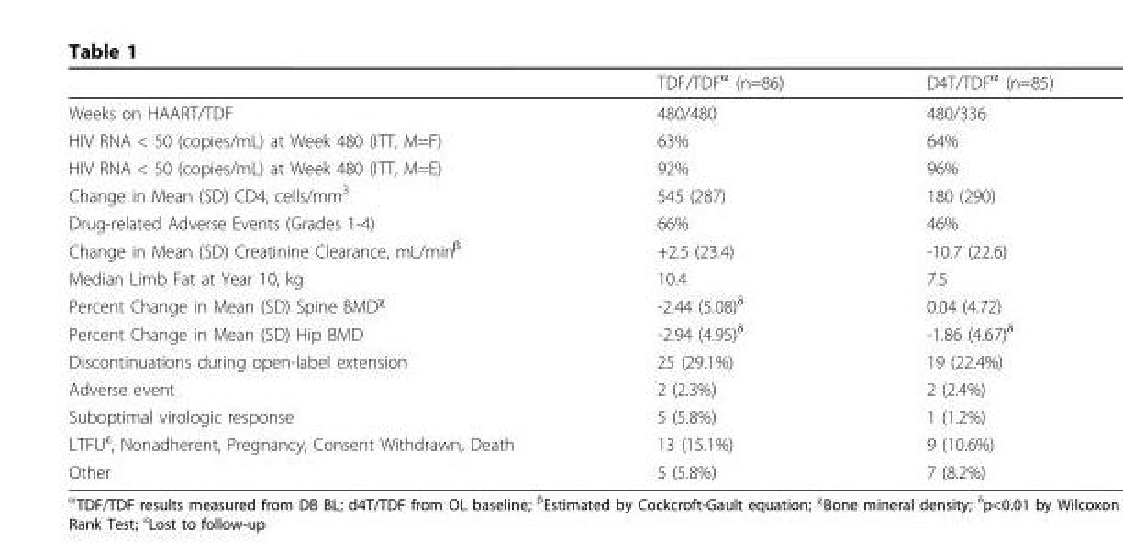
<table><thead><tr><td></td><td>TDF/TDF<sup>α</sup> (n=86)</td><td>D4T/TDF<sup>α</sup> (n=85)</td></tr></thead><tbody><tr><td>Weeks on HAART/TDF</td><td>480/480</td><td>480/336</td></tr><tr><td>HIV RNA &lt; 50 (copies/mL) at Week 480 (ITT, M=F)</td><td>63%</td><td>64%</td></tr><tr><td>HIV RNA &lt; 50 (copies/mL) at Week 480 (ITT, M=E)</td><td>92%</td><td>96%</td></tr><tr><td>Change in Mean (SD) CD4, cells/mm<sup>3</sup></td><td>545 (287)</td><td>180 (290)</td></tr><tr><td>Drug-related Adverse Events (Grades 1-4)</td><td>66%</td><td>46%</td></tr><tr><td>Change in Mean (SD) Creatinine Clearance, mL/min<sup>β</sup></td><td>+2.5 (23.4)</td><td>-10.7 (22.6)</td></tr><tr><td>Median Limb Fat at Year 10, kg</td><td>10.4</td><td>7.5</td></tr><tr><td>Percent Change in Mean (SD) Spine BMD<sup>χ</sup></td><td>-2.44 (5.08)<sup>δ</sup></td><td>0.04 (4.72)</td></tr><tr><td>Percent Change in Mean (SD) Hip BMD</td><td>-2.94 (4.95)<sup>δ</sup></td><td>-1.86 (4.67)<sup>δ</sup></td></tr><tr><td>Discontinuations during open-label extension</td><td>25 (29.1%)</td><td>19 (22.4%)</td></tr><tr><td>Adverse event</td><td>2 (2.3%)</td><td>2 (2.4%)</td></tr><tr><td>Suboptimal virologic response</td><td>5 (5.8%)</td><td>1 (1.2%)</td></tr><tr><td>LTFU<sup>ε</sup>, Nonadherent, Pregnancy, Consent Withdrawn, Death</td><td>13 (15.1%)</td><td>9 (10.6%)</td></tr><tr><td>Other</td><td>5 (5.8%)</td><td>7 (8.2%)</td></tr></tbody></table>